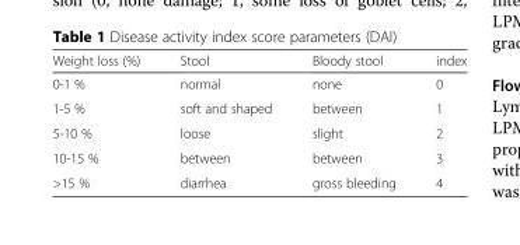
<table><thead><tr><td>Weight loss (%)</td><td>Stool</td><td>Bloody stool</td><td>index</td></tr></thead><tbody><tr><td>0-1 %</td><td>normal</td><td>none</td><td>0</td></tr><tr><td>1-5 %</td><td>soft and shaped</td><td>between</td><td>1</td></tr><tr><td>5-10 %</td><td>loose</td><td>slight</td><td>2</td></tr><tr><td>10-15 %</td><td>between</td><td>between</td><td>3</td></tr><tr><td>&gt;15 %</td><td>diarrhea</td><td>gross bleeding</td><td>4</td></tr></tbody></table>